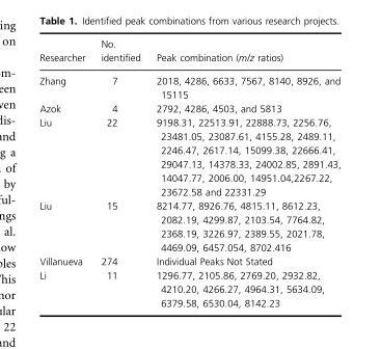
<table><thead><tr><td>Researcher</td><td>No. identified</td><td>Peak combination (m/z ratios)</td></tr></thead><tbody><tr><td>Zhang</td><td>7</td><td>2018, 4286, 6633, 7567, 8140, 8926, and 15115</td></tr><tr><td>Azok</td><td>4</td><td>2792, 4286, 4503, and 5813</td></tr><tr><td>Liu</td><td>22</td><td>9198.31, 22513.91, 22888.73, 2256.76, 23481.05, 23087.61, 4155.28, 2489.11, 2246.47, 2617.14, 15099.38, 22666.41, 29047.13, 14378.33, 24002.85, 2891.43, 14047.77, 2006.00, 14951.04,2267.22, 23672.58 and 22331.29</td></tr><tr><td>Liu</td><td>15</td><td>8214.77, 8926.76, 4815.11, 8612.23, 2082.19, 4299.87, 2103.54, 7764.82, 2368.19, 3226.97, 2389.55, 2021.78, 4469.09, 6457.054, 8702.416</td></tr><tr><td>Villanueva</td><td>274</td><td>Individual Peaks Not Stated</td></tr><tr><td>Li</td><td>11</td><td>1296.77, 2105.86, 2769.20, 2932.82, 4210.20, 4266.27, 4964.31, 5634.09, 6379.58, 6530.04, 8142.23</td></tr></tbody></table>